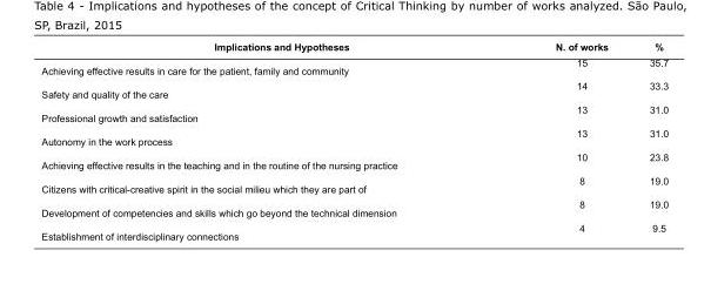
<table><tbody><tr><td>Implications and Hypotheses</td><td>N. of works</td><td>%</td></tr><tr><td>Achieving effective results in care for the patient, family and community</td><td>15</td><td>35.7</td></tr><tr><td>Safety and quality of the care</td><td>14</td><td>33.3</td></tr><tr><td>Professional growth and satisfaction</td><td>13</td><td>31.0</td></tr><tr><td>Autonomy in the work process</td><td>13</td><td>31.0</td></tr><tr><td>Achieving effective results in the teaching and in the routine of the nursing practice</td><td>10</td><td>23.8</td></tr><tr><td>Citizens with critical-creative spirit in the social milieu which they are part of</td><td>8</td><td>19.0</td></tr><tr><td>Development of competencies and skills which go beyond the technical dimension</td><td>8</td><td>19.0</td></tr><tr><td>Establishment of interdisciplinary connections</td><td>4</td><td>9.5</td></tr></tbody></table>